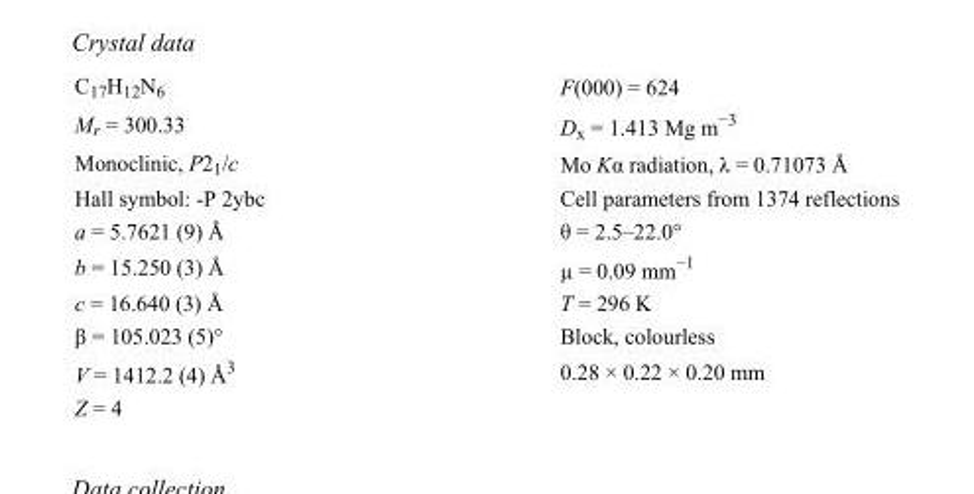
<table><tbody><tr><td>C<sub>17</sub>H<sub>12</sub>N<sub>6</sub></td><td>F(000) = 624</td></tr><tr><td>M<sub>r</sub> = 300.33</td><td>D<sub>x</sub> = 1.413 Mg m<sup>−3</sup></td></tr><tr><td>Monoclinic, P2<sub>1</sub>/c</td><td>Mo Kα radiation, λ = 0.71073 Å</td></tr><tr><td>Hall symbol: -P 2ybc</td><td>Cell parameters from 1374 reflections</td></tr><tr><td>a = 5.7621 (9) Å</td><td>θ = 2.5–22.0°</td></tr><tr><td>b = 15.250 (3) Å</td><td>µ = 0.09 mm<sup>−1</sup></td></tr><tr><td>c = 16.640 (3) Å</td><td>T = 296 K</td></tr><tr><td>β = 105.023 (5)°</td><td>Block, colourless</td></tr><tr><td>V = 1412.2 (4) Å<sup>3</sup></td><td>0.28 × 0.22 × 0.20 mm</td></tr><tr><td>Z = 4</td><td></td></tr></tbody></table>